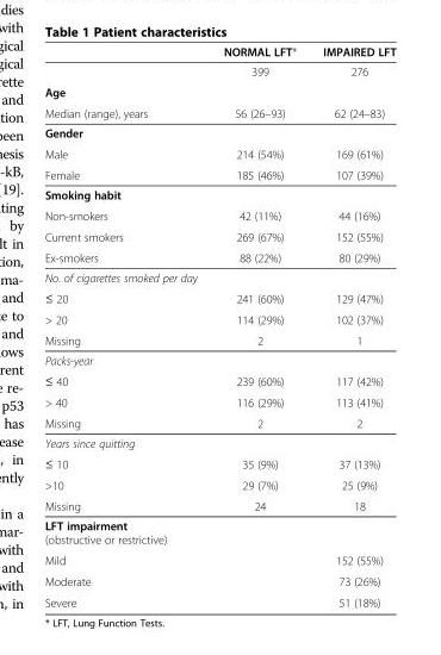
<table><thead><tr><td></td><td>NORMAL LFT*</td><td>IMPAIRED LFT</td></tr></thead><tbody><tr><td></td><td>399</td><td>276</td></tr><tr><td colspan="3">Age</td></tr><tr><td>Median (range), years</td><td>56 (26–93)</td><td>62 (24–83)</td></tr><tr><td colspan="3">Gender</td></tr><tr><td>Male</td><td>214 (54%)</td><td>169 (61%)</td></tr><tr><td>Female</td><td>185 (46%)</td><td>107 (39%)</td></tr><tr><td colspan="3">Smoking habit</td></tr><tr><td>Non-smokers</td><td>42 (11%)</td><td>44 (16%)</td></tr><tr><td>Current smokers</td><td>269 (67%)</td><td>152 (55%)</td></tr><tr><td>Ex-smokers</td><td>88 (22%)</td><td>80 (29%)</td></tr><tr><td colspan="3">No. of cigarettes smoked per day</td></tr><tr><td>≤ 20</td><td>241 (60%)</td><td>129 (47%)</td></tr><tr><td>&gt; 20</td><td>114 (29%)</td><td>102 (37%)</td></tr><tr><td>Missing</td><td>2</td><td>1</td></tr><tr><td colspan="3">Packs-year</td></tr><tr><td>≤ 40</td><td>239 (60%)</td><td>117 (42%)</td></tr><tr><td>&gt; 40</td><td>116 (29%)</td><td>113 (41%)</td></tr><tr><td>Missing</td><td>2</td><td>2</td></tr><tr><td colspan="3">Years since quitting</td></tr><tr><td>≤ 10</td><td>35 (9%)</td><td>37 (13%)</td></tr><tr><td>&gt;10</td><td>29 (7%)</td><td>25 (9%)</td></tr><tr><td>Missing</td><td>24</td><td>18</td></tr><tr><td colspan="3">LFT impairment (obstructive or restrictive)</td></tr><tr><td>Mild</td><td></td><td>152 (55%)</td></tr><tr><td>Moderate</td><td></td><td>73 (26%)</td></tr><tr><td>Severe</td><td></td><td>51 (18%)</td></tr></tbody></table>